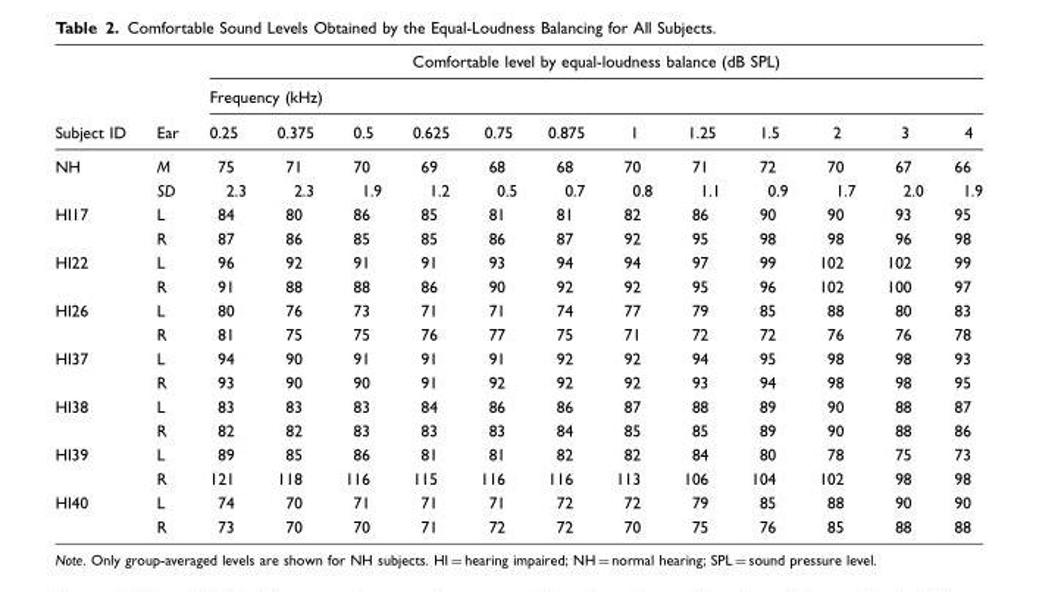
<table><thead><tr><td rowspan="3">Subject ID</td><td rowspan="3">Ear</td><td rowspan="2" colspan="12">Comfortable level by equal-loudness balance (dB SPL) Frequency (kHz)</td></tr><tr></tr><tr><td>0.25</td><td>0.375</td><td>0.5</td><td>0.625</td><td>0.75</td><td>0.875</td><td>1</td><td>1.25</td><td>1.5</td><td>2</td><td>3</td><td>4</td></tr></thead><tbody><tr><td rowspan="2">NH</td><td>M</td><td>75</td><td>71</td><td>70</td><td>69</td><td>68</td><td>68</td><td>70</td><td>71</td><td>72</td><td>70</td><td>67</td><td>66</td></tr><tr><td>SD</td><td>2.3</td><td>2.3</td><td>1.9</td><td>1.2</td><td>0.5</td><td>0.7</td><td>0.8</td><td>1.1</td><td>0.9</td><td>1.7</td><td>2.0</td><td>1.9</td></tr><tr><td rowspan="2">HI17</td><td>L</td><td>84</td><td>80</td><td>86</td><td>85</td><td>81</td><td>81</td><td>82</td><td>86</td><td>90</td><td>90</td><td>93</td><td>95</td></tr><tr><td>R</td><td>87</td><td>86</td><td>85</td><td>85</td><td>86</td><td>87</td><td>92</td><td>95</td><td>98</td><td>98</td><td>96</td><td>98</td></tr><tr><td rowspan="2">HI22</td><td>L</td><td>96</td><td>92</td><td>91</td><td>91</td><td>93</td><td>94</td><td>94</td><td>97</td><td>99</td><td>102</td><td>102</td><td>99</td></tr><tr><td>R</td><td>91</td><td>88</td><td>88</td><td>86</td><td>90</td><td>92</td><td>92</td><td>95</td><td>96</td><td>102</td><td>100</td><td>97</td></tr><tr><td rowspan="2">HI26</td><td>L</td><td>80</td><td>76</td><td>73</td><td>71</td><td>71</td><td>74</td><td>77</td><td>79</td><td>85</td><td>88</td><td>80</td><td>83</td></tr><tr><td>R</td><td>81</td><td>75</td><td>75</td><td>76</td><td>77</td><td>75</td><td>71</td><td>72</td><td>72</td><td>76</td><td>76</td><td>78</td></tr><tr><td rowspan="2">HI37</td><td>L</td><td>94</td><td>90</td><td>91</td><td>91</td><td>91</td><td>92</td><td>92</td><td>94</td><td>95</td><td>98</td><td>98</td><td>93</td></tr><tr><td>R</td><td>93</td><td>90</td><td>90</td><td>91</td><td>92</td><td>92</td><td>92</td><td>93</td><td>94</td><td>98</td><td>98</td><td>95</td></tr><tr><td rowspan="2">HI38</td><td>L</td><td>83</td><td>83</td><td>83</td><td>84</td><td>86</td><td>86</td><td>87</td><td>88</td><td>89</td><td>90</td><td>88</td><td>87</td></tr><tr><td>R</td><td>82</td><td>82</td><td>83</td><td>83</td><td>83</td><td>84</td><td>85</td><td>85</td><td>89</td><td>90</td><td>88</td><td>86</td></tr><tr><td rowspan="2">HI39</td><td>L</td><td>89</td><td>85</td><td>86</td><td>81</td><td>81</td><td>82</td><td>82</td><td>84</td><td>80</td><td>78</td><td>75</td><td>73</td></tr><tr><td>R</td><td>121</td><td>118</td><td>116</td><td>115</td><td>116</td><td>116</td><td>113</td><td>106</td><td>104</td><td>102</td><td>98</td><td>98</td></tr><tr><td rowspan="2">HI40</td><td>L</td><td>74</td><td>70</td><td>71</td><td>71</td><td>71</td><td>72</td><td>72</td><td>79</td><td>85</td><td>88</td><td>90</td><td>90</td></tr><tr><td>R</td><td>73</td><td>70</td><td>70</td><td>71</td><td>72</td><td>72</td><td>70</td><td>75</td><td>76</td><td>85</td><td>88</td><td>88</td></tr></tbody></table>